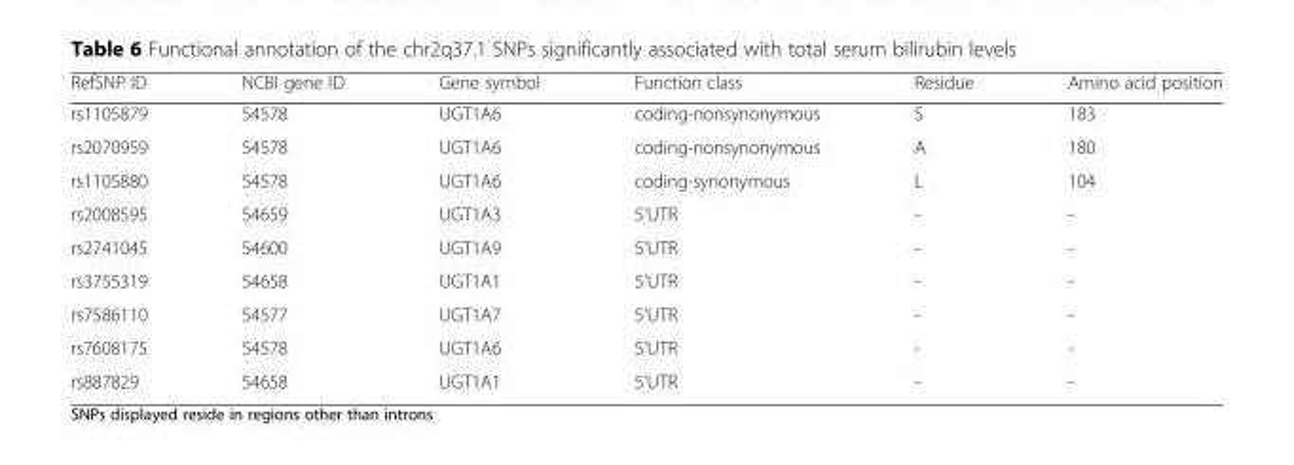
<table><thead><tr><td>RefSNP ID</td><td>NCBI gene ID</td><td>Gene symbol</td><td>Function class</td><td>Residue</td><td>Amino acid position</td></tr></thead><tbody><tr><td>rs1105879</td><td>54578</td><td>UGT1A6</td><td>coding-nonsynonymous</td><td>S</td><td>183</td></tr><tr><td>rs2070959</td><td>54578</td><td>UGT1A6</td><td>coding-nonsynonymous</td><td>A</td><td>180</td></tr><tr><td>rs1105880</td><td>54578</td><td>UGT1A6</td><td>coding-synonymous</td><td>L</td><td>104</td></tr><tr><td>rs2008595</td><td>54659</td><td>UGT1A3</td><td>5&#x27;UTR</td><td>-</td><td>-</td></tr><tr><td>rs2741045</td><td>54600</td><td>UGT1A9</td><td>5&#x27;UTR</td><td>-</td><td>-</td></tr><tr><td>rs3755319</td><td>54658</td><td>UGT1A1</td><td>5&#x27;UTR</td><td>-</td><td>-</td></tr><tr><td>rs7586110</td><td>54577</td><td>UGT1A7</td><td>5&#x27;UTR</td><td>-</td><td>-</td></tr><tr><td>rs7608175</td><td>54578</td><td>UGT1A6</td><td>5&#x27;UTR</td><td>-</td><td>-</td></tr><tr><td>rs887829</td><td>54658</td><td>UGT1A1</td><td>5&#x27;UTR</td><td>-</td><td>-</td></tr></tbody></table>